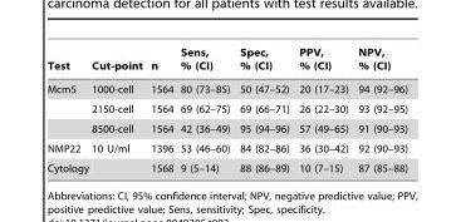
<table><thead><tr><td>Test</td><td>Cut-point</td><td>n</td><td>Sens, % (CI)</td><td>Spec, % (CI)</td><td>PPV, % (CI)</td><td>NPV, % (CI)</td></tr></thead><tbody><tr><td rowspan="3">Mcm5</td><td>1000-cell</td><td>1564</td><td>80 (73–85)</td><td>50 (47–52)</td><td>20 (17–23)</td><td>94 (92–96)</td></tr><tr><td>2150-cell</td><td>1564</td><td>69 (62–75)</td><td>69 (66–71)</td><td>26 (22–30)</td><td>93 (92–95)</td></tr><tr><td>8500-cell</td><td>1564</td><td>42 (36–49)</td><td>95 (94–96)</td><td>57 (49–65)</td><td>91 (90–93)</td></tr><tr><td>NMP22</td><td>10 U/ml</td><td>1396</td><td>53 (46–60)</td><td>84 (82–86)</td><td>36 (30–42)</td><td>92 (90–93)</td></tr><tr><td>Cytology</td><td></td><td>1568</td><td>9 (5–14)</td><td>88 (86–89)</td><td>10 (7–15)</td><td>87 (85–88)</td></tr></tbody></table>